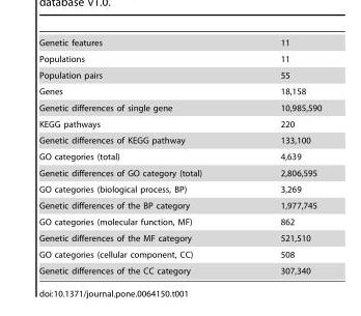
<table><tbody><tr><td>Genetic features</td><td>11</td></tr><tr><td>Populations</td><td>11</td></tr><tr><td>Population pairs</td><td>55</td></tr><tr><td>Genes</td><td>18,158</td></tr><tr><td>Genetic differences of single gene</td><td>10,985,590</td></tr><tr><td>KEGG pathways</td><td>220</td></tr><tr><td>Genetic differences of KEGG pathway</td><td>133,100</td></tr><tr><td>GO categories (total)</td><td>4,639</td></tr><tr><td>Genetic differences of GO category (total)</td><td>2,806,595</td></tr><tr><td>GO categories (biological process, BP)</td><td>3,269</td></tr><tr><td>Genetic differences of the BP category</td><td>1,977,745</td></tr><tr><td>GO categories (molecular function, MF)</td><td>862</td></tr><tr><td>Genetic differences of the MF category</td><td>521,510</td></tr><tr><td>GO categories (cellular component, CC)</td><td>508</td></tr><tr><td>Genetic differences of the CC category</td><td>307,340</td></tr></tbody></table>